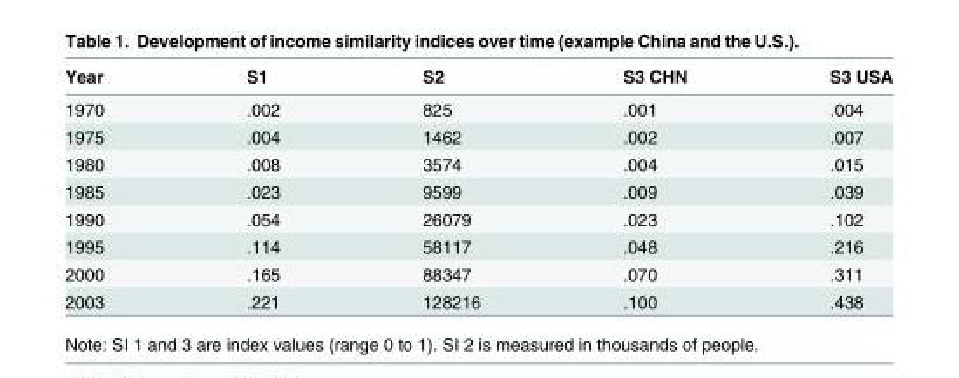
<table><thead><tr><td>Year</td><td>S1</td><td>S2</td><td>S3 CHN</td><td>S3 USA</td></tr></thead><tbody><tr><td>1970</td><td>.002</td><td>825</td><td>.001</td><td>.004</td></tr><tr><td>1975</td><td>.004</td><td>1462</td><td>.002</td><td>.007</td></tr><tr><td>1980</td><td>.008</td><td>3574</td><td>.004</td><td>.015</td></tr><tr><td>1985</td><td>.023</td><td>9599</td><td>.009</td><td>.039</td></tr><tr><td>1990</td><td>.054</td><td>26079</td><td>.023</td><td>.102</td></tr><tr><td>1995</td><td>.114</td><td>58117</td><td>.048</td><td>.216</td></tr><tr><td>2000</td><td>.165</td><td>88347</td><td>.070</td><td>.311</td></tr><tr><td>2003</td><td>.221</td><td>128216</td><td>.100</td><td>.438</td></tr></tbody></table>